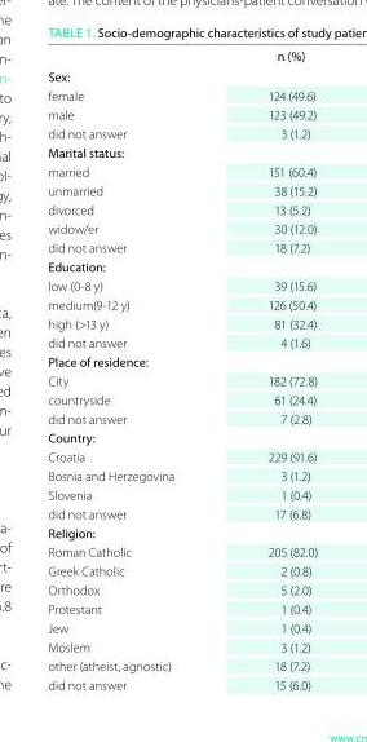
<table><thead><tr><td></td><td>n (%)</td></tr></thead><tbody><tr><td colspan="2">sex:</td></tr><tr><td>female</td><td>124 (49.6)</td></tr><tr><td>male</td><td>123 (49.2)</td></tr><tr><td>did not answer</td><td>3 (1.2)</td></tr><tr><td colspan="2">Marital status:</td></tr><tr><td>married</td><td>151 (60.4)</td></tr><tr><td>unmarried</td><td>38 (15.2)</td></tr><tr><td>divorced</td><td>13 (5.2)</td></tr><tr><td>widow/er</td><td>30 (12.0)</td></tr><tr><td>did not answer</td><td>18 (7.2)</td></tr><tr><td colspan="2">education:</td></tr><tr><td>low (0-8 y)</td><td>39 (15.6)</td></tr><tr><td>medium(9-12 y)</td><td>126 (50.4)</td></tr><tr><td>high (&gt;13 y)</td><td>81 (32.4)</td></tr><tr><td>did not answer</td><td>4 (1.6)</td></tr><tr><td colspan="2">Place of residence:</td></tr><tr><td>City</td><td>182 (72.8)</td></tr><tr><td>countryside</td><td>61 (24.4)</td></tr><tr><td>did not answer</td><td>7 (2.8)</td></tr><tr><td colspan="2">Country:</td></tr><tr><td>Croatia</td><td>229 (91.6)</td></tr><tr><td>Bosnia and Herzegovina</td><td>3 (1.2)</td></tr><tr><td>Slovenia</td><td>1 (0.4)</td></tr><tr><td>did not answer</td><td>17 (6.8)</td></tr><tr><td colspan="2">Religion:</td></tr><tr><td>Roman Catholic</td><td>205 (82.0)</td></tr><tr><td>Greek Catholic</td><td>2 (0.8)</td></tr><tr><td>Orthodox</td><td>5 (2.0)</td></tr><tr><td>Protestant</td><td>1 (0.4)</td></tr><tr><td>Jew</td><td>1 (0.4)</td></tr><tr><td>Moslem</td><td>3 (1.2)</td></tr><tr><td>other (atheist, agnostic)</td><td>18 (7.2)</td></tr><tr><td>did not answer</td><td>15 (6.0)</td></tr></tbody></table>